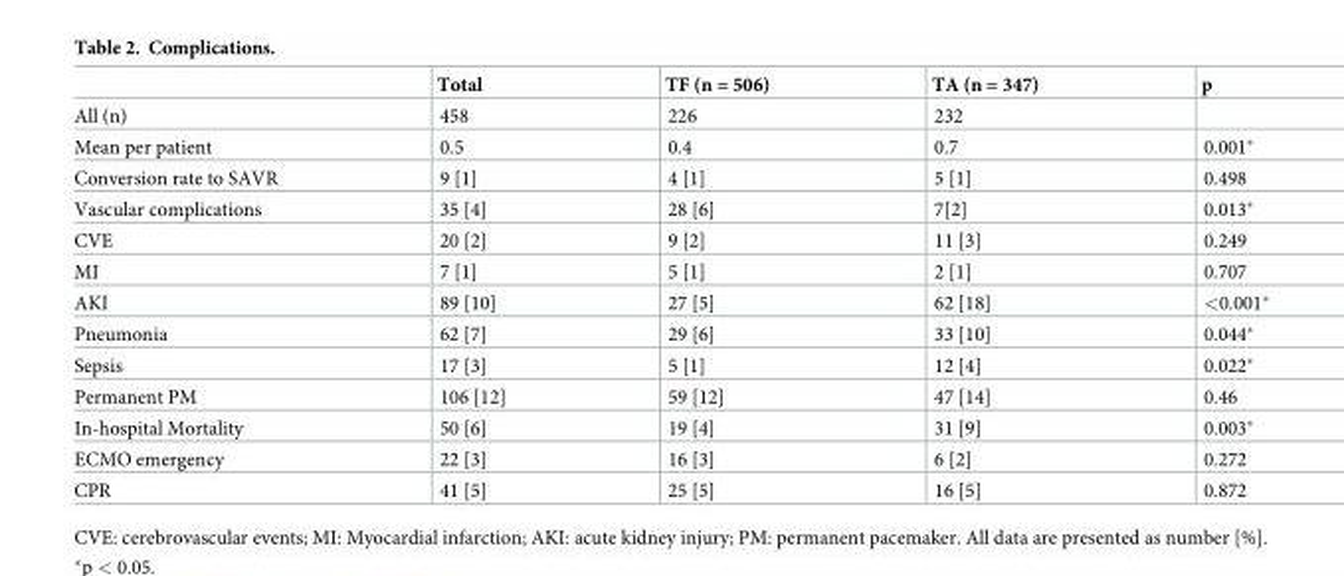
<table><thead><tr><td></td><td>Total</td><td>TF (n = 506)</td><td>TA (n = 347)</td><td>p</td></tr></thead><tbody><tr><td>All (n)</td><td>458</td><td>226</td><td>232</td><td></td></tr><tr><td>Mean per patient</td><td>0.5</td><td>0.4</td><td>0.7</td><td>0.001*</td></tr><tr><td>Conversion rate to SAVR</td><td>9 [1]</td><td>4 [1]</td><td>5 [1]</td><td>0.498</td></tr><tr><td>Vascular complications</td><td>35 [4]</td><td>28 [6]</td><td>7[2]</td><td>0.013*</td></tr><tr><td>CVE</td><td>20 [2]</td><td>9 [2]</td><td>11 [3]</td><td>0.249</td></tr><tr><td>MI</td><td>7 [1]</td><td>5 [1]</td><td>2 [1]</td><td>0.707</td></tr><tr><td>AKI</td><td>89 [10]</td><td>27 [5]</td><td>62 [18]</td><td>&lt;0.001*</td></tr><tr><td>Pneumonia</td><td>62 [7]</td><td>29 [6]</td><td>33 [10]</td><td>0.044*</td></tr><tr><td>Sepsis</td><td>17 [3]</td><td>5 [1]</td><td>12 [4]</td><td>0.022*</td></tr><tr><td>Permanent PM</td><td>106 [12]</td><td>59 [12]</td><td>47 [14]</td><td>0.46</td></tr><tr><td>In-hospital Mortality</td><td>50 [6]</td><td>19 [4]</td><td>31 [9]</td><td>0.003*</td></tr><tr><td>ECMO emergency</td><td>22 [3]</td><td>16 [3]</td><td>6 [2]</td><td>0.272</td></tr><tr><td>CPR</td><td>41 [5]</td><td>25 [5]</td><td>16 [5]</td><td>0.872</td></tr></tbody></table>